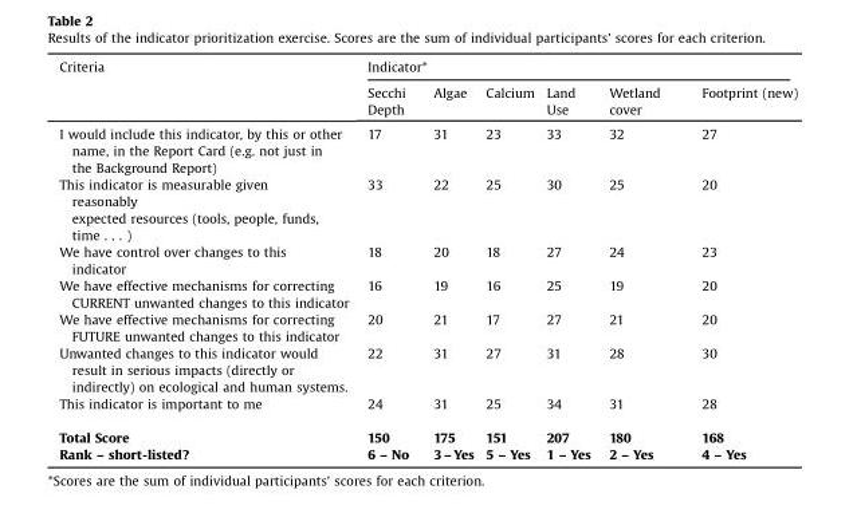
<table><thead><tr><td rowspan="2">Criteria</td><td colspan="6">Indicator*</td></tr><tr><td>Secchi Depth</td><td>Algae</td><td>Calcium</td><td>Land Use</td><td>Wetland cover</td><td>Footprint (new)</td></tr></thead><tbody><tr><td>I would include this indicator, by this or other name, in the Report Card (e.g. not just in the Background Report)</td><td>17</td><td>31</td><td>23</td><td>33</td><td>32</td><td>27</td></tr><tr><td>This indicator is measurable given reasonably expected resources (tools, people, funds, time . . . )</td><td>33</td><td>22</td><td>25</td><td>30</td><td>25</td><td>20</td></tr><tr><td>We have control over changes to this indicator</td><td>18</td><td>20</td><td>18</td><td>27</td><td>24</td><td>23</td></tr><tr><td>We have effective mechanisms for correcting CURRENT unwanted changes to this indicator</td><td>16</td><td>19</td><td>16</td><td>25</td><td>19</td><td>20</td></tr><tr><td>We have effective mechanisms for correcting FUTURE unwanted changes to this indicator</td><td>20</td><td>21</td><td>17</td><td>27</td><td>21</td><td>20</td></tr><tr><td>Unwanted changes to this indicator would result in serious impacts (directly or indirectly) on ecological and human systems.</td><td>22</td><td>31</td><td>27</td><td>31</td><td>28</td><td>30</td></tr><tr><td>This indicator is important to me</td><td>24</td><td>31</td><td>25</td><td>34</td><td>31</td><td>28</td></tr><tr><td>Total Score</td><td>150</td><td>175</td><td>151</td><td>207</td><td>180</td><td>168</td></tr><tr><td>Rank – short-listed?</td><td>6 – No</td><td>3 – Yes</td><td>5 – Yes</td><td>1 – Yes</td><td>2 – Yes</td><td>4 – Yes</td></tr></tbody></table>